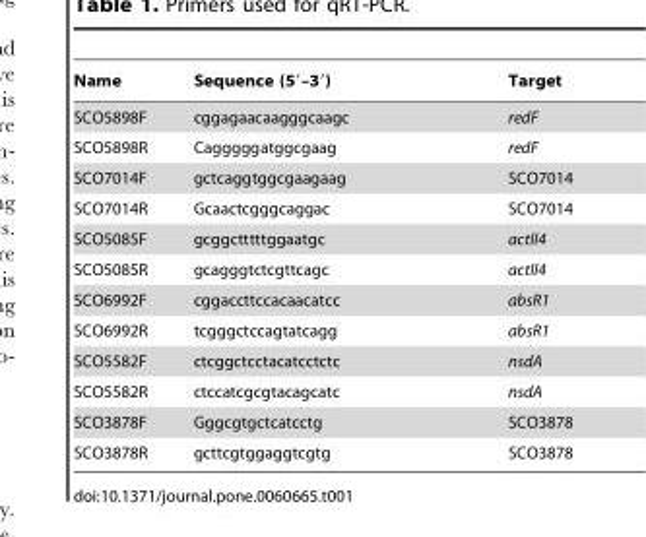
<table><thead><tr><td>Name</td><td>Sequence (5′–3′)</td><td>Target</td></tr></thead><tbody><tr><td>SCO5898F</td><td>cggagaacaagggcaagc</td><td>redF</td></tr><tr><td>SCO5898R</td><td>Cagggggatggcgaag</td><td>redF</td></tr><tr><td>SCO7014F</td><td>gctcaggtggcgaagaag</td><td>SCO7014</td></tr><tr><td>SCO7014R</td><td>Gcaactcgggcaggac</td><td>SCO7014</td></tr><tr><td>SCO5085F</td><td>gcggctttttggaatgc</td><td>actII4</td></tr><tr><td>SCO5085R</td><td>gcagggtctcgttcagc</td><td>actII4</td></tr><tr><td>SCO6992F</td><td>cggaccttccacaacatcc</td><td>absR1</td></tr><tr><td>SCO6992R</td><td>tcgggctccagtatcagg</td><td>absR1</td></tr><tr><td>SCO5582F</td><td>ctcggctcctacatcctctc</td><td>nsdA</td></tr><tr><td>SCO5582R</td><td>ctccatcgcgtacagcatc</td><td>nsdA</td></tr><tr><td>SCO3878F</td><td>Gggcgtgctcatcctg</td><td>SCO3878</td></tr><tr><td>SCO3878R</td><td>gcttcgtggaggtcgtg</td><td>SCO3878</td></tr></tbody></table>